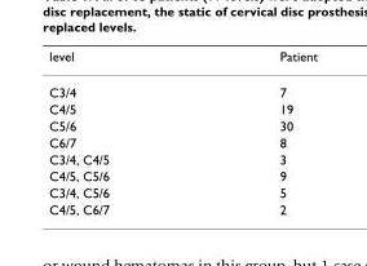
<table><thead><tr><td>level</td><td>Patient</td></tr></thead><tbody><tr><td>C3/4</td><td>7</td></tr><tr><td>C4/5</td><td>19</td></tr><tr><td>C5/6</td><td>30</td></tr><tr><td>C6/7</td><td>8</td></tr><tr><td>C3/4, C4/5</td><td>3</td></tr><tr><td>C4/5, C5/6</td><td>9</td></tr><tr><td>C3/4, C5/6</td><td>5</td></tr><tr><td>C4/5, C6/7</td><td>2</td></tr></tbody></table>